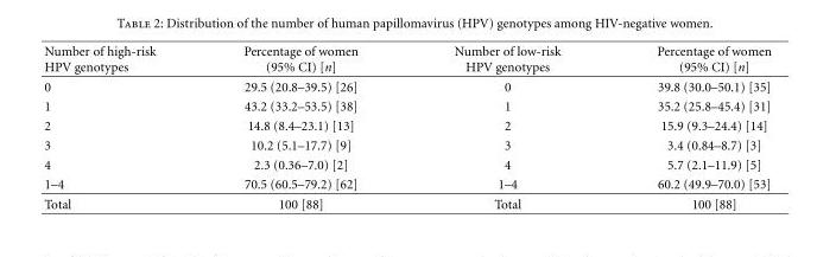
<table><thead><tr><td>Number of high-risk HPV genotypes</td><td>Percentage of women (95% CI) [n]</td><td>Number of low-risk HPV genotypes</td><td>Percentage of women (95% CI) [n]</td></tr></thead><tbody><tr><td>0</td><td>29.5 (20.8–39.5) [26]</td><td>0</td><td>39.8 (30.0–50.1) [35]</td></tr><tr><td>1</td><td>43.2 (33.2–53.5) [38]</td><td>1</td><td>35.2 (25.8–45.4) [31]</td></tr><tr><td>2</td><td>14.8 (8.4–23.1) [13]</td><td>2</td><td>15.9 (9.3–24.4) [14]</td></tr><tr><td>3</td><td>10.2 (5.1–17.7) [9]</td><td>3</td><td>3.4 (0.84–8.7) [3]</td></tr><tr><td>4</td><td>2.3 (0.36–7.0) [2]</td><td>4</td><td>5.7 (2.1–11.9) [5]</td></tr><tr><td>1–4</td><td>70.5 (60.5–79.2) [62]</td><td>1–4</td><td>60.2 (49.9–70.0) [53]</td></tr><tr><td>Total</td><td>100 [88]</td><td>Total</td><td>100 [88]</td></tr></tbody></table>